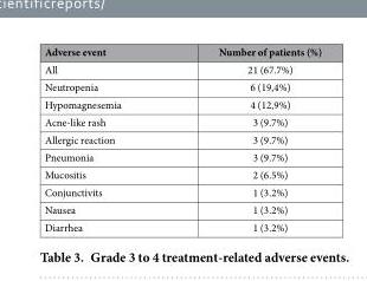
<table><thead><tr><td>Adverse event</td><td>Number of patients (%)</td></tr></thead><tbody><tr><td>All</td><td>21 (67.7%)</td></tr><tr><td>Neutropenia</td><td>6 (19,4%)</td></tr><tr><td>Hypomagnesemia</td><td>4 (12,9%)</td></tr><tr><td>Acne-like rash</td><td>3 (9.7%)</td></tr><tr><td>Allergic reaction</td><td>3 (9.7%)</td></tr><tr><td>Pneumonia</td><td>3 (9.7%)</td></tr><tr><td>Mucositis</td><td>2 (6.5%)</td></tr><tr><td>Conjunctivits</td><td>1 (3.2%)</td></tr><tr><td>Nausea</td><td>1 (3.2%)</td></tr><tr><td>Diarrhea</td><td>1 (3.2%)</td></tr></tbody></table>